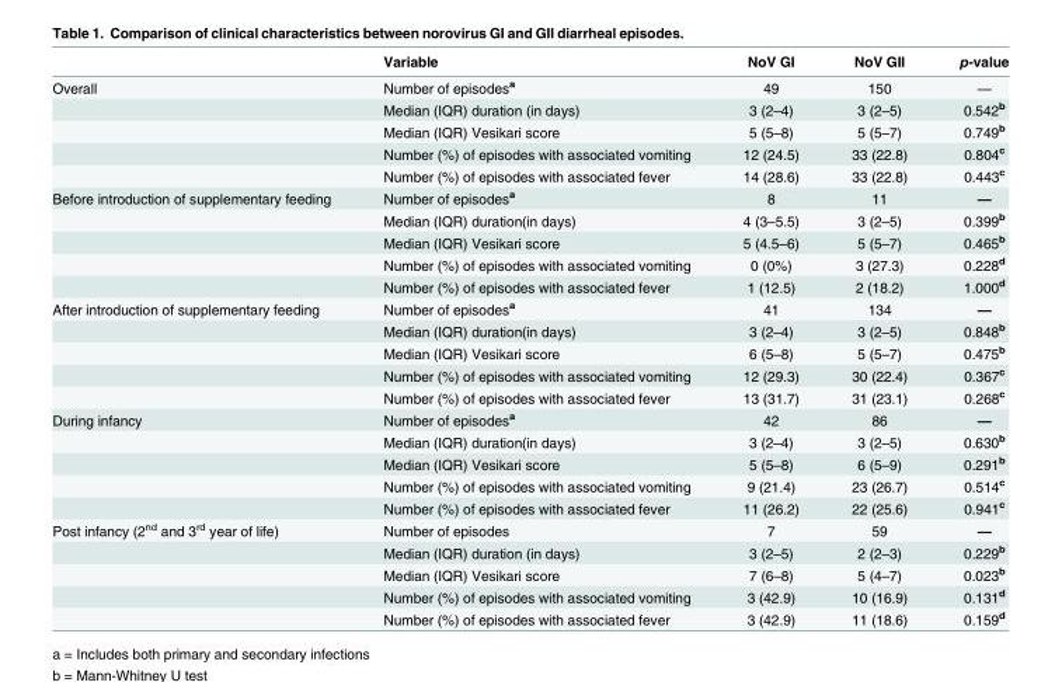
<table><thead><tr><td></td><td>Variable</td><td>NoV GI</td><td>NoV GII</td><td>p-value</td></tr></thead><tbody><tr><td rowspan="5">Overall</td><td>Number of episodes<sup>a</sup></td><td>49</td><td>150</td><td>—</td></tr><tr><td>Median (IQR) duration (in days)</td><td>3 (2–4)</td><td>3 (2–5)</td><td>0.542<sup>b</sup></td></tr><tr><td>Median (IQR) Vesikari score</td><td>5 (5–8)</td><td>5 (5–7)</td><td>0.749<sup>b</sup></td></tr><tr><td>Number (%) of episodes with associated vomiting</td><td>12 (24.5)</td><td>33 (22.8)</td><td>0.804<sup>c</sup></td></tr><tr><td>Number (%) of episodes with associated fever</td><td>14 (28.6)</td><td>33 (22.8)</td><td>0.443<sup>c</sup></td></tr><tr><td rowspan="5">Before introduction of supplementary feeding</td><td>Number of episodes<sup>a</sup></td><td>8</td><td>11</td><td>—</td></tr><tr><td>Median (IQR) duration(in days)</td><td>4 (3–5.5)</td><td>3 (2–5)</td><td>0.399<sup>b</sup></td></tr><tr><td>Median (IQR) Vesikari score</td><td>5 (4.5–6)</td><td>5 (5–7)</td><td>0.465<sup>b</sup></td></tr><tr><td>Number (%) of episodes with associated vomiting</td><td>0 (0%)</td><td>3 (27.3)</td><td>0.228<sup>d</sup></td></tr><tr><td>Number (%) of episodes with associated fever</td><td>1 (12.5)</td><td>2 (18.2)</td><td>1.000<sup>d</sup></td></tr><tr><td rowspan="5">After introduction of supplementary feeding</td><td>Number of episodes<sup>a</sup></td><td>41</td><td>134</td><td>—</td></tr><tr><td>Median (IQR) duration(in days)</td><td>3 (2–4)</td><td>3 (2–5)</td><td>0.848<sup>b</sup></td></tr><tr><td>Median (IQR) Vesikari score</td><td>6 (5–8)</td><td>5 (5–7)</td><td>0.475<sup>b</sup></td></tr><tr><td>Number (%) of episodes with associated vomiting</td><td>12 (29.3)</td><td>30 (22.4)</td><td>0.367<sup>c</sup></td></tr><tr><td>Number (%) of episodes with associated fever</td><td>13 (31.7)</td><td>31 (23.1)</td><td>0.268<sup>c</sup></td></tr><tr><td rowspan="5">During infancy</td><td>Number of episodes<sup>a</sup></td><td>42</td><td>86</td><td>—</td></tr><tr><td>Median (IQR) duration(in days)</td><td>3 (2–4)</td><td>3 (2–5)</td><td>0.630<sup>b</sup></td></tr><tr><td>Median (IQR) Vesikari score</td><td>5 (5–8)</td><td>6 (5–9)</td><td>0.291<sup>b</sup></td></tr><tr><td>Number (%) of episodes with associated vomiting</td><td>9 (21.4)</td><td>23 (26.7)</td><td>0.514<sup>c</sup></td></tr><tr><td>Number (%) of episodes with associated fever</td><td>11 (26.2)</td><td>22 (25.6)</td><td>0.941<sup>c</sup></td></tr><tr><td rowspan="5">Post infancy (2<sup>nd</sup> and 3<sup>rd</sup> year of life)</td><td>Number of episodes</td><td>7</td><td>59</td><td>—</td></tr><tr><td>Median (IQR) duration (in days)</td><td>3 (2–5)</td><td>2 (2–3)</td><td>0.229<sup>b</sup></td></tr><tr><td>Median (IQR) Vesikari score</td><td>7 (6–8)</td><td>5 (4–7)</td><td>0.023<sup>b</sup></td></tr><tr><td>Number (%) of episodes with associated vomiting</td><td>3 (42.9)</td><td>10 (16.9)</td><td>0.131<sup>d</sup></td></tr><tr><td>Number (%) of episodes with associated fever</td><td>3 (42.9)</td><td>11 (18.6)</td><td>0.159<sup>d</sup></td></tr></tbody></table>